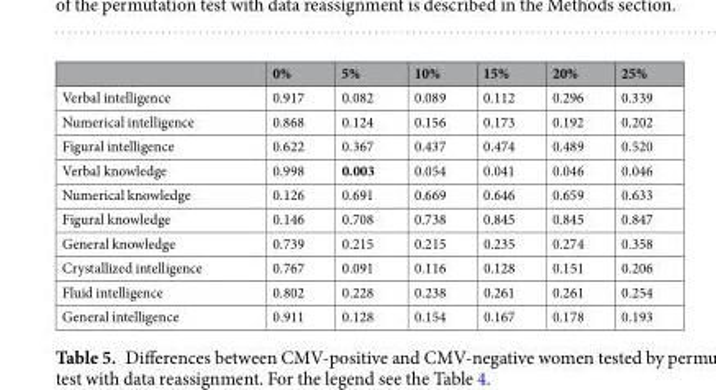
<table><thead><tr><td></td><td>0%</td><td>5%</td><td>10%</td><td>15%</td><td>20%</td><td>25%</td></tr></thead><tbody><tr><td>Verbal intelligence</td><td>0.917</td><td>0.082</td><td>0.089</td><td>0.112</td><td>0.296</td><td>0.339</td></tr><tr><td>Numerical intelligence</td><td>0.868</td><td>0.124</td><td>0.156</td><td>0.173</td><td>0.192</td><td>0.202</td></tr><tr><td>Figural intelligence</td><td>0.622</td><td>0.367</td><td>0.437</td><td>0.474</td><td>0.489</td><td>0.520</td></tr><tr><td>Verbal knowledge</td><td>0.998</td><td>0.003</td><td>0.054</td><td>0.041</td><td>0.046</td><td>0.046</td></tr><tr><td>Numerical knowledge</td><td>0.126</td><td>0.691</td><td>0.669</td><td>0.646</td><td>0.659</td><td>0.633</td></tr><tr><td>Figural knowledge</td><td>0.146</td><td>0.708</td><td>0.738</td><td>0.845</td><td>0.845</td><td>0.847</td></tr><tr><td>General knowledge</td><td>0.739</td><td>0.215</td><td>0.215</td><td>0.235</td><td>0.274</td><td>0.358</td></tr><tr><td>Crystallized intelligence</td><td>0.767</td><td>0.091</td><td>0.116</td><td>0.128</td><td>0.151</td><td>0.206</td></tr><tr><td>Fluid intelligence</td><td>0.802</td><td>0.228</td><td>0.238</td><td>0.261</td><td>0.261</td><td>0.254</td></tr><tr><td>General intelligence</td><td>0.911</td><td>0.128</td><td>0.154</td><td>0.167</td><td>0.178</td><td>0.193</td></tr></tbody></table>